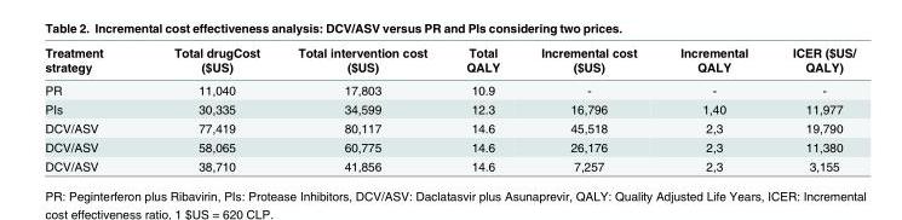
<table><thead><tr><td>Treatment strategy</td><td>Total drugCost ($US)</td><td>Total intervention cost ($US)</td><td>Total QALY</td><td>Incremental cost ($US)</td><td>Incremental QALY</td><td>ICER ($US/ QALY)</td></tr></thead><tbody><tr><td>PR</td><td>11,040</td><td>17,803</td><td>10.9</td><td>-</td><td>-</td><td>-</td></tr><tr><td>PIs</td><td>30,335</td><td>34,599</td><td>12.3</td><td>16,796</td><td>1,40</td><td>11,977</td></tr><tr><td>DCV/ASV</td><td>77,419</td><td>80,117</td><td>14.6</td><td>45,518</td><td>2,3</td><td>19,790</td></tr><tr><td>DCV/ASV</td><td>58,065</td><td>60,775</td><td>14.6</td><td>26,176</td><td>2,3</td><td>11,380</td></tr><tr><td>DCV/ASV</td><td>38,710</td><td>41,856</td><td>14.6</td><td>7,257</td><td>2,3</td><td>3,155</td></tr></tbody></table>